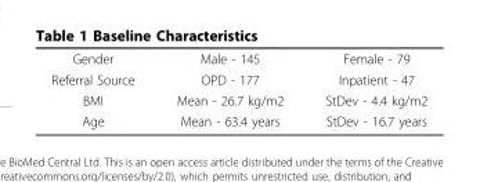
<table><tbody><tr><td>Gender</td><td>Male - 145</td><td>Female - 79</td></tr><tr><td>Referral Source</td><td>OPD - 177</td><td>Inpatient - 47</td></tr><tr><td>BMI</td><td>Mean - 26.7 kg/m2</td><td>StDev - 4.4 kg/m2</td></tr><tr><td>Age</td><td>Mean - 63.4 years</td><td>StDev - 16.7 years</td></tr></tbody></table>